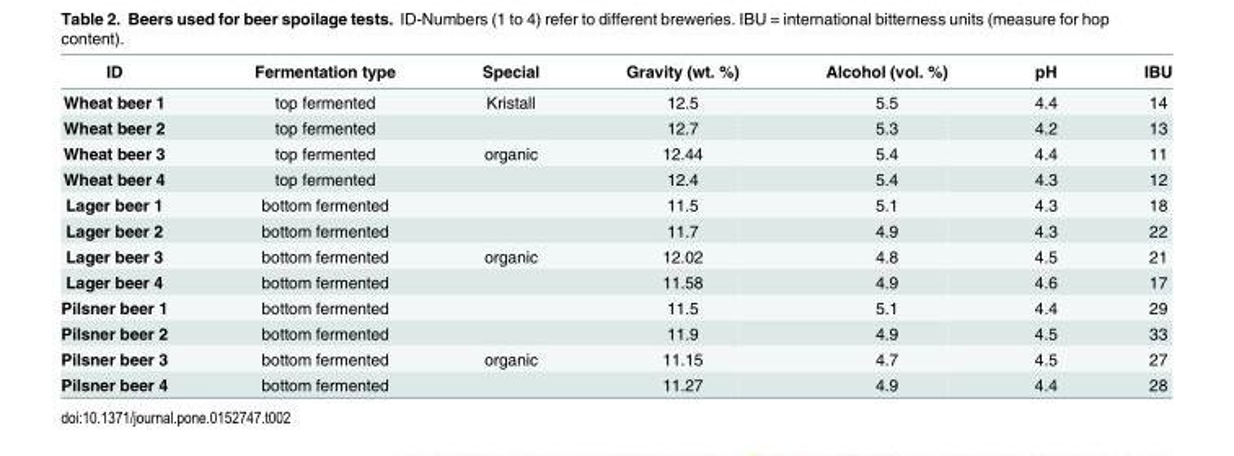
<table><thead><tr><td>ID</td><td>Fermentation type</td><td>Special</td><td>Gravity (wt. %)</td><td>Alcohol (vol. %)</td><td>pH</td><td>IBU</td></tr></thead><tbody><tr><td>Wheat beer 1</td><td>top fermented</td><td>Kristall</td><td>12.5</td><td>5.5</td><td>4.4</td><td>14</td></tr><tr><td>Wheat beer 2</td><td>top fermented</td><td></td><td>12.7</td><td>5.3</td><td>4.2</td><td>13</td></tr><tr><td>Wheat beer 3</td><td>top fermented</td><td>organic</td><td>12.44</td><td>5.4</td><td>4.4</td><td>11</td></tr><tr><td>Wheat beer 4</td><td>top fermented</td><td></td><td>12.4</td><td>5.4</td><td>4.3</td><td>12</td></tr><tr><td>Lager beer 1</td><td>bottom fermented</td><td></td><td>11.5</td><td>5.1</td><td>4.3</td><td>18</td></tr><tr><td>Lager beer 2</td><td>bottom fermented</td><td></td><td>11.7</td><td>4.9</td><td>4.3</td><td>22</td></tr><tr><td>Lager beer 3</td><td>bottom fermented</td><td>organic</td><td>12.02</td><td>4.8</td><td>4.5</td><td>21</td></tr><tr><td>Lager beer 4</td><td>bottom fermented</td><td></td><td>11.58</td><td>4.9</td><td>4.6</td><td>17</td></tr><tr><td>Pilsner beer 1</td><td>bottom fermented</td><td></td><td>11.5</td><td>5.1</td><td>4.4</td><td>29</td></tr><tr><td>Pilsner beer 2</td><td>bottom fermented</td><td></td><td>11.9</td><td>4.9</td><td>4.5</td><td>33</td></tr><tr><td>Pilsner beer 3</td><td>bottom fermented</td><td>organic</td><td>11.15</td><td>4.7</td><td>4.5</td><td>27</td></tr><tr><td>Pilsner beer 4</td><td>bottom fermented</td><td></td><td>11.27</td><td>4.9</td><td>4.4</td><td>28</td></tr></tbody></table>